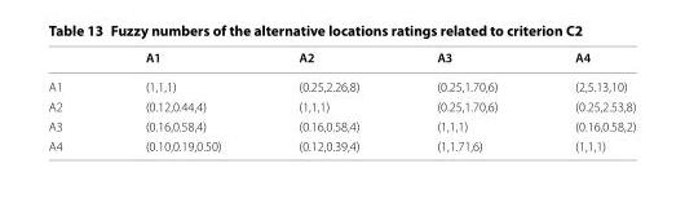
<table><thead><tr><td></td><td>A1</td><td>A2</td><td>A3</td><td>A4</td></tr></thead><tbody><tr><td>A1</td><td>(1,1,1)</td><td>(0.25,2.26,8)</td><td>(0.25,1.70,6)</td><td>(2,5.13,10)</td></tr><tr><td>A2</td><td>(0.12,0.44,4)</td><td>(1,1,1)</td><td>(0.25,1.70,6)</td><td>(0.25,2.53,8)</td></tr><tr><td>A3</td><td>(0.16,0.58,4)</td><td>(0.16,0.58,4)</td><td>(1,1,1)</td><td>(0.16,0.58,2)</td></tr><tr><td>A4</td><td>(0.10,0.19,0.50)</td><td>(0.12,0.39,4)</td><td>(1,1.71,6)</td><td>(1,1,1)</td></tr></tbody></table>